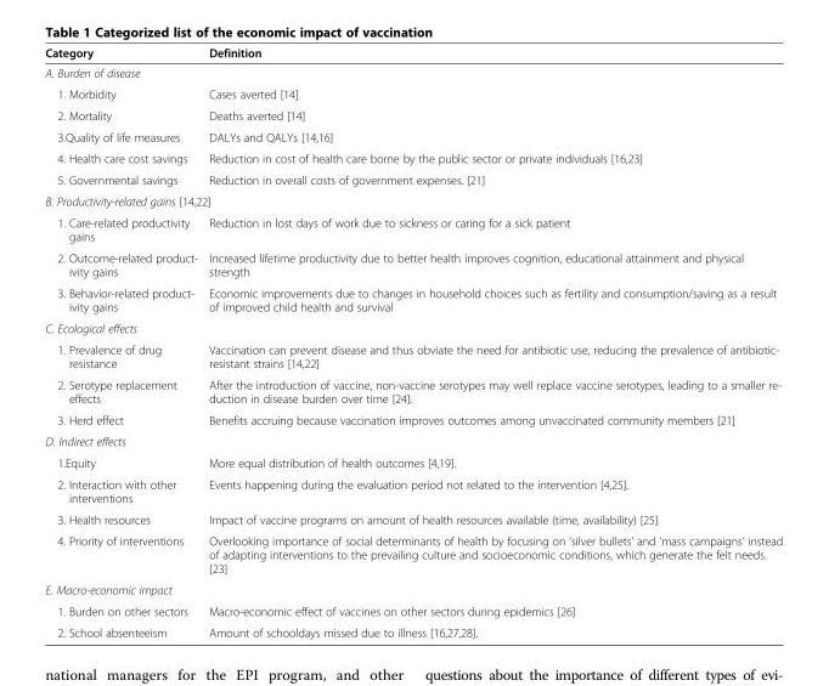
<table><thead><tr><td>Category</td><td>Definition</td></tr></thead><tbody><tr><td colspan="2">A. Burden of disease</td></tr><tr><td>1. Morbidity</td><td>Cases averted [14]</td></tr><tr><td>2. Mortality</td><td>Deaths averted [14]</td></tr><tr><td>3.Quality of life measures</td><td>DALYs and QALYs [14,16]</td></tr><tr><td>4. Health care cost savings</td><td>Reduction in cost of health care borne by the public sector or private individuals [16,23]</td></tr><tr><td>5. Governmental savings</td><td>Reduction in overall costs of government expenses. [21]</td></tr><tr><td colspan="2">B. Productivity-related gains [14,22]</td></tr><tr><td>1. Care-related productivity gains</td><td>Reduction in lost days of work due to sickness or caring for a sick patient</td></tr><tr><td>2. Outcome-related product- ivity gains</td><td>Increased lifetime productivity due to better health improves cognition, educational attainment and physical strength</td></tr><tr><td>3. Behavior-related product- ivity gains</td><td>Economic improvements due to changes in household choices such as fertility and consumption/saving as a result of improved child health and survival</td></tr><tr><td colspan="2">C. Ecological effects</td></tr><tr><td>1. Prevalence of drug resistance</td><td>Vaccination can prevent disease and thus obviate the need for antibiotic use, reducing the prevalence of antibiotic- resistant strains [14,22]</td></tr><tr><td>2. Serotype replacement effects</td><td>After the introduction of vaccine, non-vaccine serotypes may well replace vaccine serotypes, leading to a smaller re- duction in disease burden over time [24].</td></tr><tr><td>3. Herd effect</td><td>Benefits accruing because vaccination improves outcomes among unvaccinated community members [21]</td></tr><tr><td colspan="2">D. Indirect effects</td></tr><tr><td>1.Equity</td><td>More equal distribution of health outcomes [4,19].</td></tr><tr><td>2. Interaction with other interventions</td><td>Events happening during the evaluation period not related to the intervention [4,25].</td></tr><tr><td>3. Health resources</td><td>Impact of vaccine programs on amount of health resources available (time, availability) [25]</td></tr><tr><td>4. Priority of interventions</td><td>Overlooking importance of social determinants of health by focusing on ‘silver bullets’ and ‘mass campaigns’ instead of adapting interventions to the prevailing culture and socioeconomic conditions, which generate the felt needs. [23]</td></tr><tr><td colspan="2">E. Macro-economic impact</td></tr><tr><td>1. Burden on other sectors</td><td>Macro-economic effect of vaccines on other sectors during epidemics [26]</td></tr><tr><td>2. School absenteeism</td><td>Amount of schooldays missed due to illness [16,27,28].</td></tr></tbody></table>